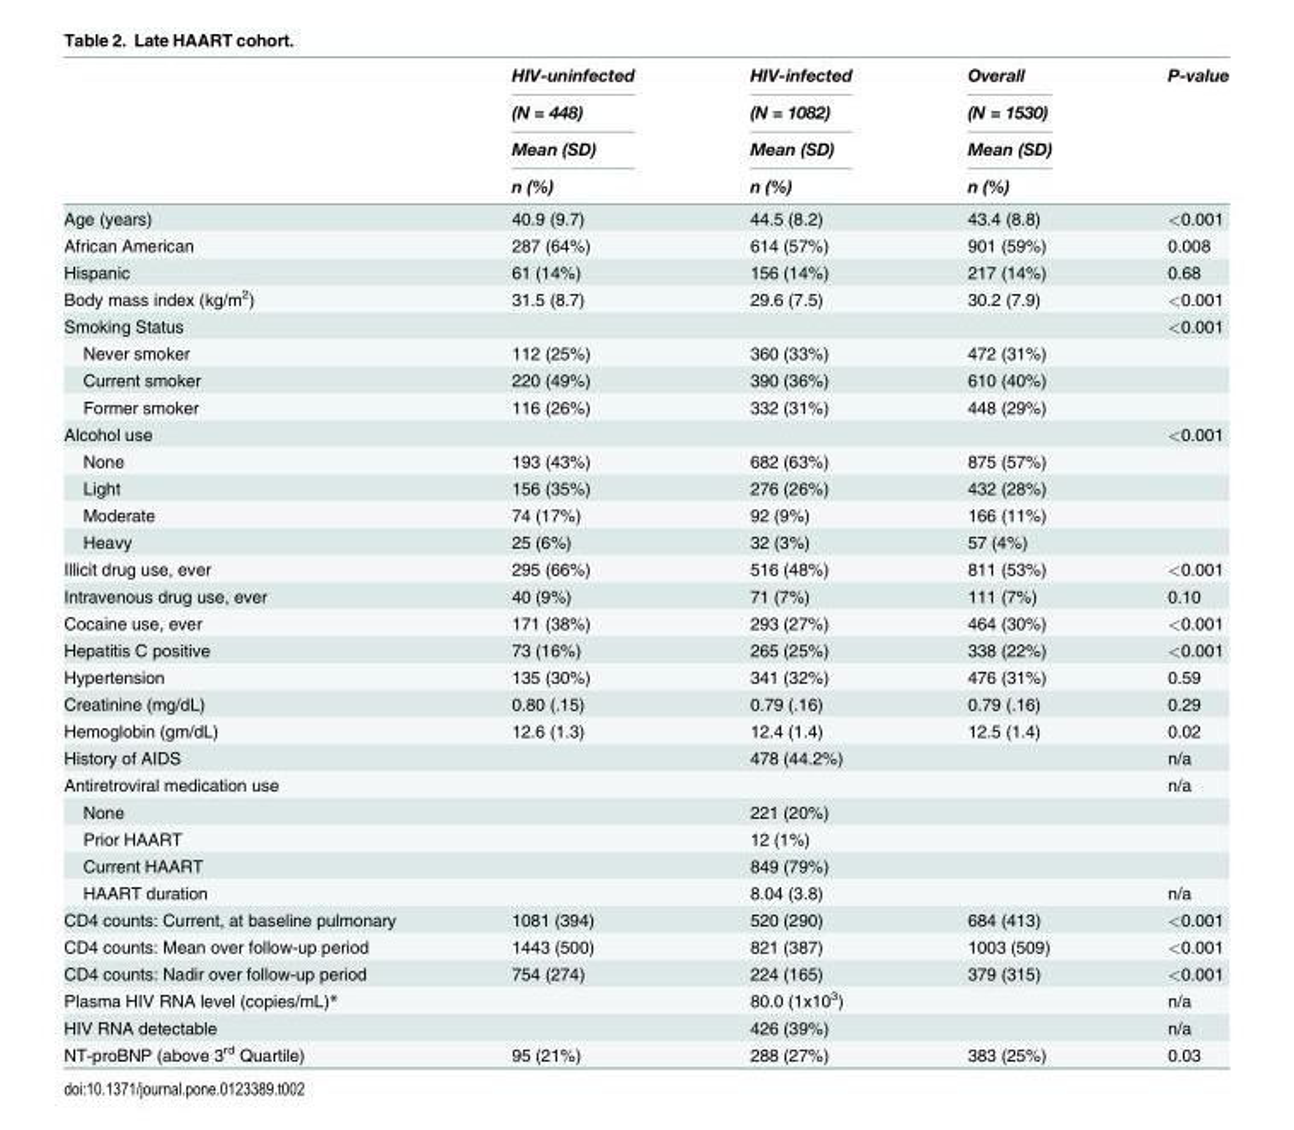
<table><thead><tr><td rowspan="4"></td><td rowspan="4">HIV-uninfected (N = 448) Mean (SD) n (%)</td><td rowspan="4">HIV-infected (N = 1082) Mean (SD) n (%)</td><td rowspan="4">Overall (N = 1530) Mean (SD) n (%)</td><td rowspan="4">P-value</td></tr><tr></tr><tr></tr><tr></tr></thead><tbody><tr><td>Age (years)</td><td>40.9 (9.7)</td><td>44.5 (8.2)</td><td>43.4 (8.8)</td><td>&lt;0.001</td></tr><tr><td>African American</td><td>287 (64%)</td><td>614 (57%)</td><td>901 (59%)</td><td>0.008</td></tr><tr><td>Hispanic</td><td>61 (14%)</td><td>156 (14%)</td><td>217 (14%)</td><td>0.68</td></tr><tr><td>Body mass index (kg/m<sup>2</sup>)</td><td>31.5 (8.7)</td><td>29.6 (7.5)</td><td>30.2 (7.9)</td><td>&lt;0.001</td></tr><tr><td>Smoking Status</td><td></td><td></td><td></td><td>&lt;0.001</td></tr><tr><td>Never smoker</td><td>112 (25%)</td><td>360 (33%)</td><td>472 (31%)</td><td></td></tr><tr><td>Current smoker</td><td>220 (49%)</td><td>390 (36%)</td><td>610 (40%)</td><td></td></tr><tr><td>Former smoker</td><td>116 (26%)</td><td>332 (31%)</td><td>448 (29%)</td><td></td></tr><tr><td>Alcohol use</td><td></td><td></td><td></td><td>&lt;0.001</td></tr><tr><td>None</td><td>193 (43%)</td><td>682 (63%)</td><td>875 (57%)</td><td></td></tr><tr><td>Light</td><td>156 (35%)</td><td>276 (26%)</td><td>432 (28%)</td><td></td></tr><tr><td>Moderate</td><td>74 (17%)</td><td>92 (9%)</td><td>166 (11%)</td><td></td></tr><tr><td>Heavy</td><td>25 (6%)</td><td>32 (3%)</td><td>57 (4%)</td><td></td></tr><tr><td>Illicit drug use, ever</td><td>295 (66%)</td><td>516 (48%)</td><td>811 (53%)</td><td>&lt;0.001</td></tr><tr><td>Intravenous drug use, ever</td><td>40 (9%)</td><td>71 (7%)</td><td>111 (7%)</td><td>0.10</td></tr><tr><td>Cocaine use, ever</td><td>171 (38%)</td><td>293 (27%)</td><td>464 (30%)</td><td>&lt;0.001</td></tr><tr><td>Hepatitis C positive</td><td>73 (16%)</td><td>265 (25%)</td><td>338 (22%)</td><td>&lt;0.001</td></tr><tr><td>Hypertension</td><td>135 (30%)</td><td>341 (32%)</td><td>476 (31%)</td><td>0.59</td></tr><tr><td>Creatinine (mg/dL)</td><td>0.80 (.15)</td><td>0.79 (.16)</td><td>0.79 (.16)</td><td>0.29</td></tr><tr><td>Hemoglobin (gm/dL)</td><td>12.6 (1.3)</td><td>12.4 (1.4)</td><td>12.5 (1.4)</td><td>0.02</td></tr><tr><td>History of AIDS</td><td></td><td>478 (44.2%)</td><td></td><td>n/a</td></tr><tr><td>Antiretroviral medication use</td><td></td><td></td><td></td><td>n/a</td></tr><tr><td>None</td><td></td><td>221 (20%)</td><td></td><td></td></tr><tr><td>Prior HAART</td><td></td><td>12 (1%)</td><td></td><td></td></tr><tr><td>Current HAART</td><td></td><td>849 (79%)</td><td></td><td></td></tr><tr><td>HAART duration</td><td></td><td>8.04 (3.8)</td><td></td><td>n/a</td></tr><tr><td>CD4 counts: Current, at baseline pulmonary</td><td>1081 (394)</td><td>520 (290)</td><td>684 (413)</td><td>&lt;0.001</td></tr><tr><td>CD4 counts: Mean over follow-up period</td><td>1443 (500)</td><td>821 (387)</td><td>1003 (509)</td><td>&lt;0.001</td></tr><tr><td>CD4 counts: Nadir over follow-up period</td><td>754 (274)</td><td>224 (165)</td><td>379 (315)</td><td>&lt;0.001</td></tr><tr><td>Plasma HIV RNA level (copies/mL)*</td><td></td><td>80.0 (1x10<sup>3</sup>)</td><td></td><td>n/a</td></tr><tr><td>HIV RNA detectable</td><td></td><td>426 (39%)</td><td></td><td>n/a</td></tr><tr><td>NT-proBNP (above 3<sup>rd</sup> Quartile)</td><td>95 (21%)</td><td>288 (27%)</td><td>383 (25%)</td><td>0.03</td></tr></tbody></table>